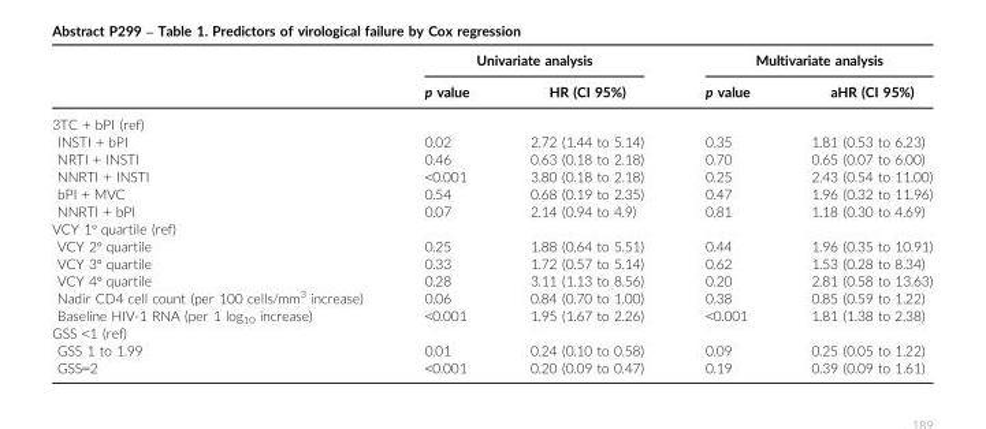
<table><thead><tr><td rowspan="2"></td><td colspan="2">Univariate analysis</td><td colspan="2">Multivariate analysis</td></tr><tr><td>p value</td><td>HR (CI 95%)</td><td>p value</td><td>aHR (CI 95%)</td></tr></thead><tbody><tr><td colspan="5">3TC + bPI (ref)</td></tr><tr><td>INSTI + bPI</td><td>0.02</td><td>2.72 (1.44 to 5.14)</td><td>0.35</td><td>1.81 (0.53 to 6.23)</td></tr><tr><td>NRTI + INSTI</td><td>0.46</td><td>0.63 (0.18 to 2.18)</td><td>0.70</td><td>0.65 (0.07 to 6.00)</td></tr><tr><td>NNRTI + INSTI</td><td>&lt;0.001</td><td>3.80 (0.18 to 2.18)</td><td>0.25</td><td>2.43 (0.54 to 11.00)</td></tr><tr><td>bPI + MVC</td><td>0.54</td><td>0.68 (0.19 to 2.35)</td><td>0.47</td><td>1.96 (0.32 to 11.96)</td></tr><tr><td>NNRTI + bPI</td><td>0.07</td><td>2.14 (0.94 to 4.9)</td><td>0.81</td><td>1.18 (0.30 to 4.69)</td></tr><tr><td colspan="5">VCY 1° quartile (ref)</td></tr><tr><td>VCY 2° quartile</td><td>0.25</td><td>1.88 (0.64 to 5.51)</td><td>0.44</td><td>1.96 (0.35 to 10.91)</td></tr><tr><td>VCY 3° quartile</td><td>0.33</td><td>1.72 (0.57 to 5.14)</td><td>0.62</td><td>1.53 (0.28 to 8.34)</td></tr><tr><td>VCY 4° quartile</td><td>0.28</td><td>3.11 (1.13 to 8.56)</td><td>0.20</td><td>2.81 (0.58 to 13.63)</td></tr><tr><td>Nadir CD4 cell count (per 100 cells/mm<sup>3</sup> increase)</td><td>0.06</td><td>0.84 (0.70 to 1.00)</td><td>0.38</td><td>0.85 (0.59 to 1.22)</td></tr><tr><td>Baseline HIV-1 RNA (per 1 log10 increase)</td><td>&lt;0.001</td><td>1.95 (1.67 to 2.26)</td><td>&lt;0.001</td><td>1.81 (1.38 to 2.38)</td></tr><tr><td colspan="5">GSS &lt;1 (ref)</td></tr><tr><td>GSS 1 to 1.99</td><td>0.01</td><td>0.24 (0.10 to 0.58)</td><td>0.09</td><td>0.25 (0.05 to 1.22)</td></tr><tr><td>GSS=2</td><td>&lt;0.001</td><td>0.20 (0.09 to 0.47)</td><td>0.19</td><td>0.39 (0.09 to 1.61)</td></tr></tbody></table>